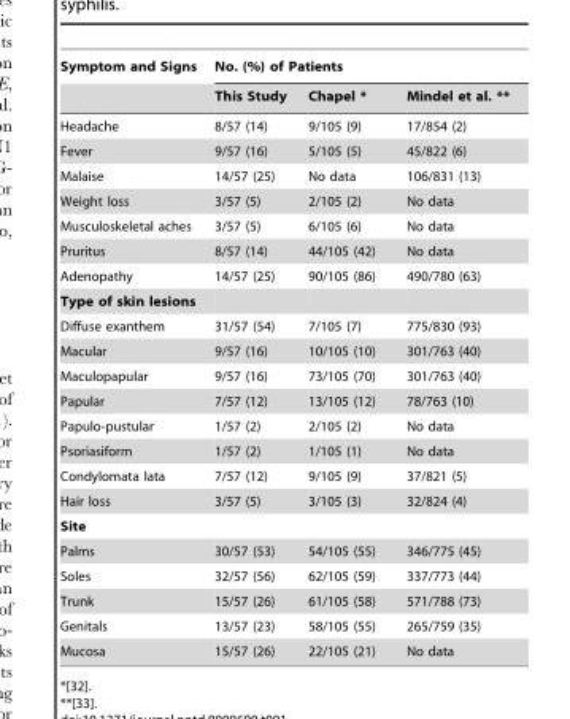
<table><thead><tr><td rowspan="2">Symptom and Signs</td><td colspan="3">No. (%) of Patients</td></tr><tr><td>This Study</td><td>Chapel *</td><td>Mindel et al. **</td></tr></thead><tbody><tr><td>Headache</td><td>8/57 (14)</td><td>9/105 (9)</td><td>17/854 (2)</td></tr><tr><td>Fever</td><td>9/57 (16)</td><td>5/105 (5)</td><td>45/822 (6)</td></tr><tr><td>Malaise</td><td>14/57 (25)</td><td>No data</td><td>106/831 (13)</td></tr><tr><td>Weight loss</td><td>3/57 (5)</td><td>2/105 (2)</td><td>No data</td></tr><tr><td>Musculoskeletal aches</td><td>3/57 (5)</td><td>6/105 (6)</td><td>No data</td></tr><tr><td>Pruritus</td><td>8/57 (14)</td><td>44/105 (42)</td><td>No data</td></tr><tr><td>Adenopathy</td><td>14/57 (25)</td><td>90/105 (86)</td><td>490/780 (63)</td></tr><tr><td colspan="4">Type of skin lesions</td></tr><tr><td>Diffuse exanthem</td><td>31/57 (54)</td><td>7/105 (7)</td><td>775/830 (93)</td></tr><tr><td>Macular</td><td>9/57 (16)</td><td>10/105 (10)</td><td>301/763 (40)</td></tr><tr><td>Maculopapular</td><td>9/57 (16)</td><td>73/105 (70)</td><td>301/763 (40)</td></tr><tr><td>Papular</td><td>7/57 (12)</td><td>13/105 (12)</td><td>78/763 (10)</td></tr><tr><td>Papulo-pustular</td><td>1/57 (2)</td><td>2/105 (2)</td><td>No data</td></tr><tr><td>Psoriasiform</td><td>1/57 (2)</td><td>1/105 (1)</td><td>No data</td></tr><tr><td>Condylomata lata</td><td>7/57 (12)</td><td>9/105 (9)</td><td>37/821 (5)</td></tr><tr><td>Hair loss</td><td>3/57 (5)</td><td>3/105 (3)</td><td>32/824 (4)</td></tr><tr><td colspan="4">Site</td></tr><tr><td>Palms</td><td>30/57 (53)</td><td>54/105 (55)</td><td>346/775 (45)</td></tr><tr><td>Soles</td><td>32/57 (56)</td><td>62/105 (59)</td><td>337/773 (44)</td></tr><tr><td>Trunk</td><td>15/57 (26)</td><td>61/105 (58)</td><td>571/788 (73)</td></tr><tr><td>Genitals</td><td>13/57 (23)</td><td>58/105 (55)</td><td>265/759 (35)</td></tr><tr><td>Mucosa</td><td>15/57 (26)</td><td>22/105 (21)</td><td>No data</td></tr></tbody></table>